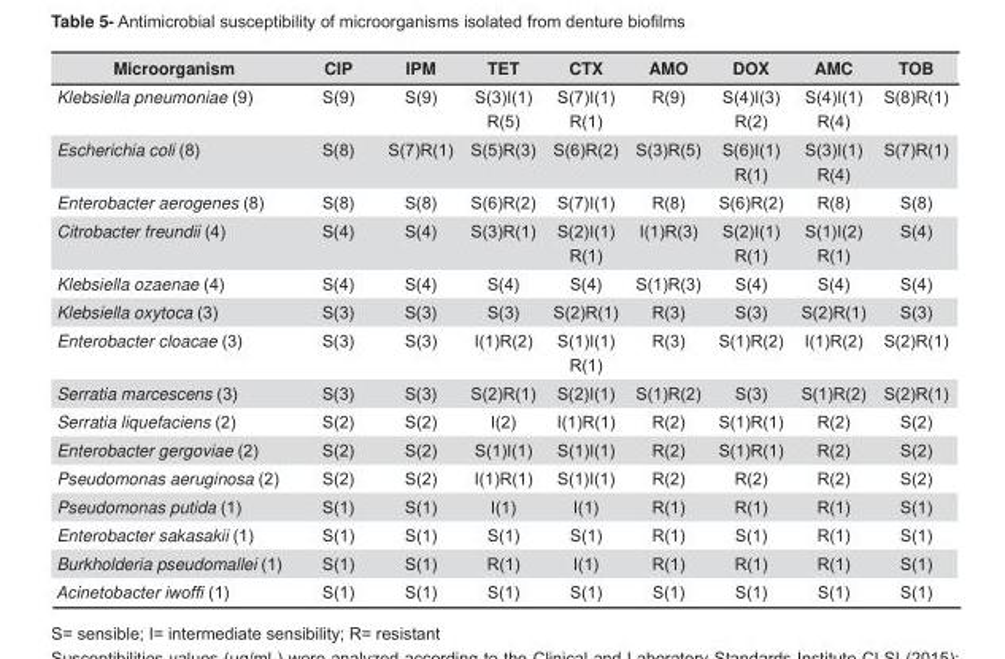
<table><thead><tr><td>Microorganism</td><td>CIP</td><td>IPM</td><td>TET</td><td>CTX</td><td>AMO</td><td>DOX</td><td>AMC</td><td>TOB</td></tr></thead><tbody><tr><td>Klebsiella pneumoniae (9)</td><td>S(9)</td><td>S(9)</td><td>S(3)I(1) R(5)</td><td>S(7)I(1) R(1)</td><td>R(9)</td><td>S(4)I(3) R(2)</td><td>S(4)I(1) R(4)</td><td>S(8)R(1)</td></tr><tr><td>Escherichia coli (8)</td><td>S(8)</td><td>S(7)R(1)</td><td>S(5)R(3)</td><td>S(6)R(2)</td><td>S(3)R(5)</td><td>S(6)I(1) R(1)</td><td>S(3)I(1) R(4)</td><td>S(7)R(1)</td></tr><tr><td>Enterobacter aerogenes (8)</td><td>S(8)</td><td>S(8)</td><td>S(6)R(2)</td><td>S(7)I(1)</td><td>R(8)</td><td>S(6)R(2)</td><td>R(8)</td><td>S(8)</td></tr><tr><td>Citrobacter freundii (4)</td><td>S(4)</td><td>S(4)</td><td>S(3)R(1)</td><td>S(2)I(1) R(1)</td><td>I(1)R(3)</td><td>S(2)I(1) R(1)</td><td>S(1)I(2) R(1)</td><td>S(4)</td></tr><tr><td>Klebsiella ozaenae (4)</td><td>S(4)</td><td>S(4)</td><td>S(4)</td><td>S(4)</td><td>S(1)R(3)</td><td>S(4)</td><td>S(4)</td><td>S(4)</td></tr><tr><td>Klebsiella oxytoca (3)</td><td>S(3)</td><td>S(3)</td><td>S(3)</td><td>S(2)R(1)</td><td>R(3)</td><td>S(3)</td><td>S(2)R(1)</td><td>S(3)</td></tr><tr><td>Enterobacter cloacae (3)</td><td>S(3)</td><td>S(3)</td><td>I(1)R(2)</td><td>S(1)I(1) R(1)</td><td>R(3)</td><td>S(1)R(2)</td><td>I(1)R(2)</td><td>S(2)R(1)</td></tr><tr><td>Serratia marcescens (3)</td><td>S(3)</td><td>S(3)</td><td>S(2)R(1)</td><td>S(2)I(1)</td><td>S(1)R(2)</td><td>S(3)</td><td>S(1)R(2)</td><td>S(2)R(1)</td></tr><tr><td>Serratia liquefaciens (2)</td><td>S(2)</td><td>S(2)</td><td>I(2)</td><td>I(1)R(1)</td><td>R(2)</td><td>S(1)R(1)</td><td>R(2)</td><td>S(2)</td></tr><tr><td>Enterobacter gergoviae (2)</td><td>S(2)</td><td>S(2)</td><td>S(1)I(1)</td><td>S(1)I(1)</td><td>R(2)</td><td>S(1)R(1)</td><td>R(2)</td><td>S(2)</td></tr><tr><td>Pseudomonas aeruginosa (2)</td><td>S(2)</td><td>S(2)</td><td>I(1)R(1)</td><td>S(1)I(1)</td><td>R(2)</td><td>R(2)</td><td>R(2)</td><td>S(2)</td></tr><tr><td>Pseudomonas putida (1)</td><td>S(1)</td><td>S(1)</td><td>I(1)</td><td>I(1)</td><td>R(1)</td><td>R(1)</td><td>R(1)</td><td>S(1)</td></tr><tr><td>Enterobacter sakasakii (1)</td><td>S(1)</td><td>S(1)</td><td>S(1)</td><td>S(1)</td><td>R(1)</td><td>S(1)</td><td>R(1)</td><td>S(1)</td></tr><tr><td>Burkholderia pseudomallei (1)</td><td>S(1)</td><td>S(1)</td><td>R(1)</td><td>I(1)</td><td>R(1)</td><td>R(1)</td><td>R(1)</td><td>S(1)</td></tr><tr><td>Acinetobacteriwoffi (1)</td><td>S(1)</td><td>S(1)</td><td>S(1)</td><td>S(1)</td><td>S(1)</td><td>S(1)</td><td>S(1)</td><td>S(1)</td></tr></tbody></table>